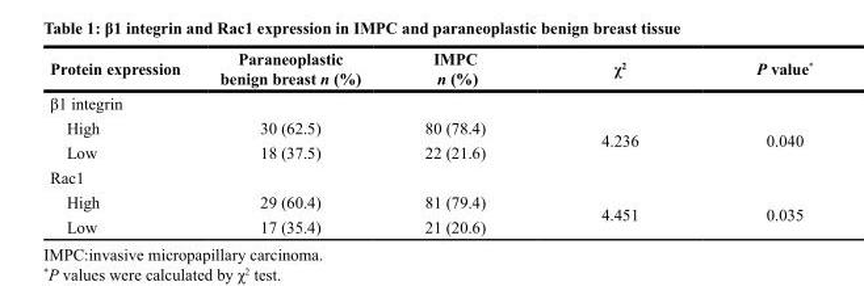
<table><thead><tr><td>Protein expression</td><td>Paraneoplastic benign breast n (%)</td><td>IMPC n (%)</td><td>χ<sup>2</sup></td><td>P value*</td></tr></thead><tbody><tr><td colspan="5">β1 integrin</td></tr><tr><td>High</td><td>30 (62.5)</td><td>80 (78.4)</td><td rowspan="2">4.236</td><td rowspan="2">0.040</td></tr><tr><td>Low</td><td>18 (37.5)</td><td>22 (21.6)</td></tr><tr><td colspan="5">Rac1</td></tr><tr><td>High</td><td>29 (60.4)</td><td>81 (79.4)</td><td rowspan="2">4.451</td><td rowspan="2">0.035</td></tr><tr><td>Low</td><td>17 (35.4)</td><td>21 (20.6)</td></tr></tbody></table>